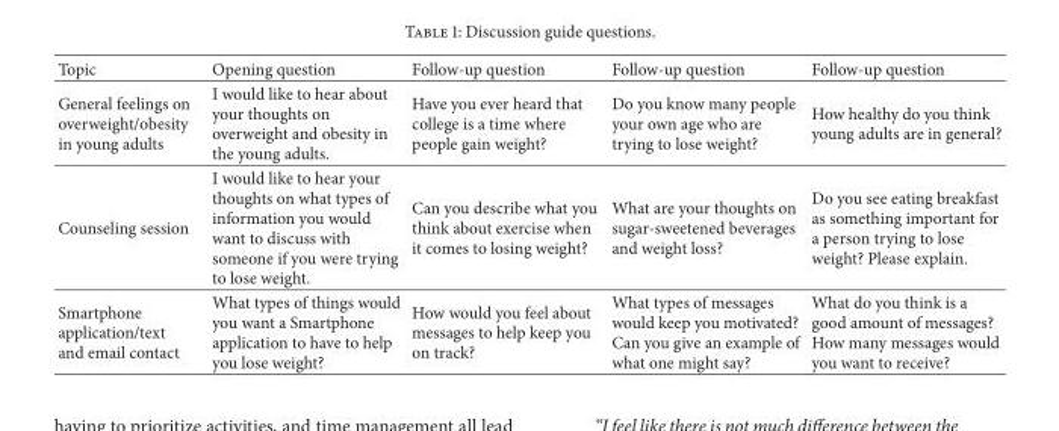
<table><thead><tr><td>Topic</td><td>Opening question</td><td>Follow-up question</td><td>Follow-up question</td><td>Follow-up question</td></tr></thead><tbody><tr><td>General feelings on overweight/obesity in young adults</td><td>I would like to hear about your thoughts on overweight and obesity in the young adults.</td><td>Have you ever heard that college is a time where people gain weight?</td><td>Do you know many people your own age who are trying to lose weight?</td><td>How healthy do you think young adults are in general?</td></tr><tr><td>Counseling session</td><td>I would like to hear your thoughts on what types of information you would want to discuss with someone if you were trying to lose weight.</td><td>Can you describe what you think about exercise when it comes to losing weight?</td><td>What are your thoughts on sugar-sweetened beverages and weight loss?</td><td>Do you see eating breakfast as something important for a person trying to lose weight? Please explain.</td></tr><tr><td>Smartphone application/text and email contact</td><td>What types of things would you want a Smartphone application to have to help you lose weight?</td><td>How would you feel about messages to help keep you on track?</td><td>What types of messages would keep you motivated? Can you give an example of what one might say?</td><td>What do you think is a good amount of messages? How many messages would you want to receive?</td></tr></tbody></table>